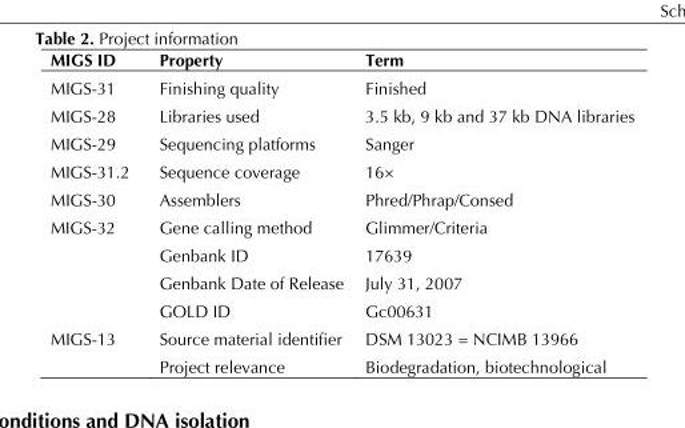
<table><thead><tr><td>MIGS ID</td><td>Property</td><td>Term</td></tr></thead><tbody><tr><td>MIGS-31</td><td>Finishing quality</td><td>Finished</td></tr><tr><td>MIGS-28</td><td>Libraries used</td><td>3.5 kb, 9 kb and 37 kb DNA libraries</td></tr><tr><td>MIGS-29</td><td>Sequencing platforms</td><td>Sanger</td></tr><tr><td>MIGS-31.2</td><td>Sequence coverage</td><td>16×</td></tr><tr><td>MIGS-30</td><td>Assemblers</td><td>Phred/Phrap/Consed</td></tr><tr><td rowspan="4">MIGS-32</td><td>Gene calling method</td><td>Glimmer/Criteria</td></tr><tr><td>Genbank ID</td><td>17639</td></tr><tr><td>Genbank Date of Release</td><td>July 31, 2007</td></tr><tr><td>GOLD ID</td><td>Gc00631</td></tr><tr><td rowspan="2">MIGS-13</td><td>Source material identifier</td><td>DSM 13023 = NCIMB 13966</td></tr><tr><td>Project relevance</td><td>Biodegradation, biotechnological</td></tr></tbody></table>